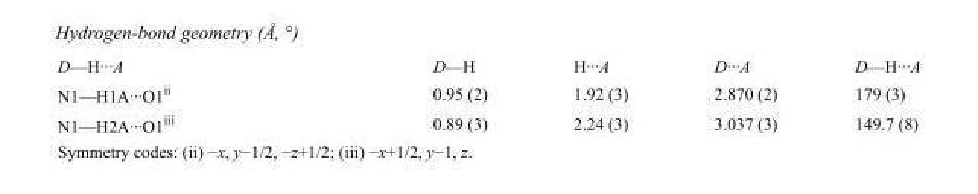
<table><tbody><tr><td>D—H···A</td><td>D—H</td><td>H···A</td><td>D···A</td><td>D—H···A</td></tr><tr><td>N1—H1A···O1<sup>ii</sup></td><td>0.95 (2)</td><td>1.92 (3)</td><td>2.870 (2)</td><td>179 (3)</td></tr><tr><td>N1—H2A···O1<sup>iii</sup></td><td>0.89 (3)</td><td>2.24 (3)</td><td>3.037 (3)</td><td>149.7 (8)</td></tr></tbody></table>